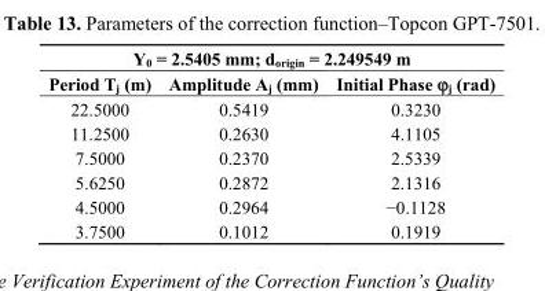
<table><thead><tr><td colspan="3">Y<sub>0</sub> = 2.5405 mm; d<sub>origin</sub> = 2.249549 m</td></tr><tr><td>Period T<sub>j</sub> (m)</td><td>Amplitude A<sub>j</sub> (mm)</td><td>Initial Phase ϕ<sub>j</sub> (rad)</td></tr></thead><tbody><tr><td>22.5000</td><td>0.5419</td><td>0.3230</td></tr><tr><td>11.2500</td><td>0.2630</td><td>4.1105</td></tr><tr><td>7.5000</td><td>0.2370</td><td>2.5339</td></tr><tr><td>5.6250</td><td>0.2872</td><td>2.1316</td></tr><tr><td>4.5000</td><td>0.2964</td><td>−0.1128</td></tr><tr><td>3.7500</td><td>0.1012</td><td>0.1919</td></tr></tbody></table>